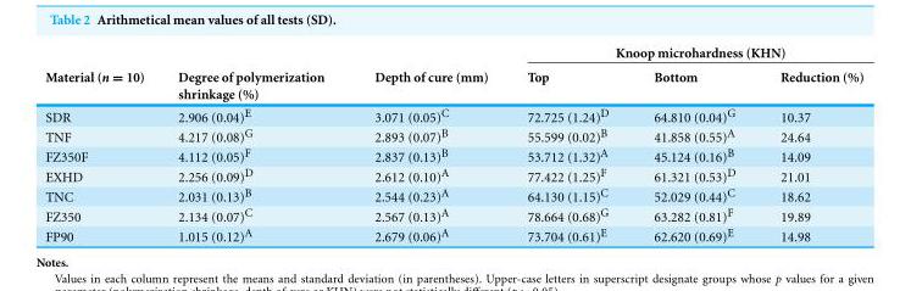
<table><thead><tr><td rowspan="2">Material (n = 10)</td><td rowspan="2">Degree of polymerization shrinkage (%)</td><td rowspan="2">Depth of cure (mm)</td><td colspan="3">Knoop microhardness (KHN)</td></tr><tr><td>Top</td><td>Bottom</td><td>Reduction (%)</td></tr></thead><tbody><tr><td>SDR</td><td>2.906 (0.04)<sup>E</sup></td><td>3.071 (0.05)<sup>C</sup></td><td>72.725 (1.24)<sup>D</sup></td><td>64.810 (0.04)<sup>G</sup></td><td>10.37</td></tr><tr><td>TNF</td><td>4.217 (0.08)<sup>G</sup></td><td>2.893 (0.07)<sup>B</sup></td><td>55.599 (0.02)<sup>B</sup></td><td>41.858 (0.55)<sup>A</sup></td><td>24.64</td></tr><tr><td>FZ350F</td><td>4.112 (0.05)<sup>F</sup></td><td>2.837 (0.13)<sup>B</sup></td><td>53.712 (1.32)<sup>A</sup></td><td>45.124 (0.16)<sup>B</sup></td><td>14.09</td></tr><tr><td>EXHD</td><td>2.256 (0.09)<sup>D</sup></td><td>2.612 (0.10)<sup>A</sup></td><td>77.422 (1.25)<sup>F</sup></td><td>61.321 (0.53)<sup>D</sup></td><td>21.01</td></tr><tr><td>TNC</td><td>2.031 (0.13)<sup>B</sup></td><td>2.544 (0.23)<sup>A</sup></td><td>64.130 (1.15)<sup>C</sup></td><td>52.029 (0.44)<sup>C</sup></td><td>18.62</td></tr><tr><td>FZ350</td><td>2.134 (0.07)<sup>C</sup></td><td>2.567 (0.13)<sup>A</sup></td><td>78.664 (0.68)<sup>G</sup></td><td>63.282 (0.81)<sup>F</sup></td><td>19.89</td></tr><tr><td>FP90</td><td>1.015 (0.12)<sup>A</sup></td><td>2.679 (0.06)<sup>A</sup></td><td>73.704 (0.61)<sup>E</sup></td><td>62.620 (0.69)<sup>E</sup></td><td>14.98</td></tr></tbody></table>